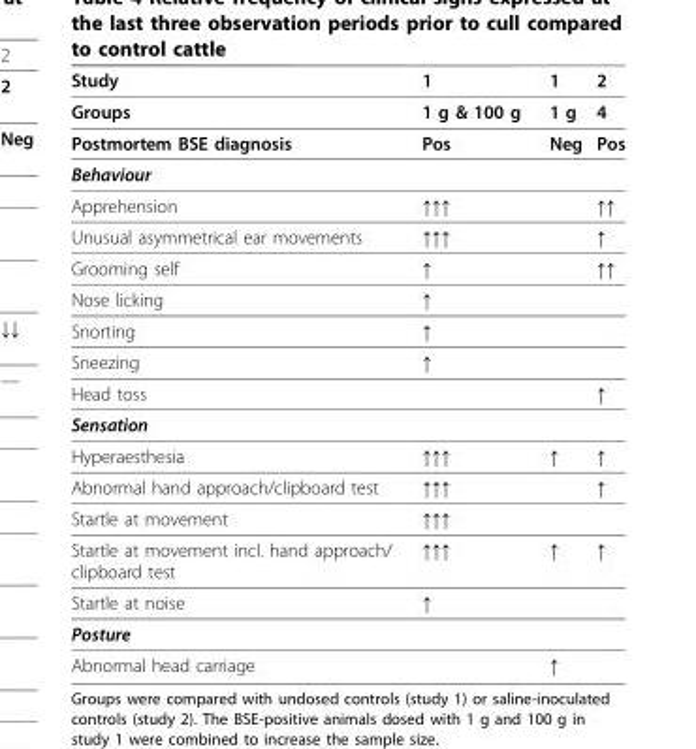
<table><thead><tr><td>Study</td><td>1</td><td>1</td><td>2</td></tr></thead><tbody><tr><td>Groups</td><td>1 g &amp; 100 g</td><td>1 g</td><td>4</td></tr><tr><td>Postmortem BSE diagnosis</td><td>Pos</td><td>Neg</td><td>Pos</td></tr><tr><td colspan="4">Behaviour</td></tr><tr><td>Apprehension</td><td>↑↑↑</td><td></td><td>↑↑</td></tr><tr><td>Unusual asymmetrical ear movements</td><td>↑↑↑</td><td></td><td>↑</td></tr><tr><td>Grooming self</td><td>↑</td><td></td><td>↑↑</td></tr><tr><td>Nose licking</td><td>↑</td><td></td><td></td></tr><tr><td>Snorting</td><td>↑</td><td></td><td></td></tr><tr><td>Sneezing</td><td>↑</td><td></td><td></td></tr><tr><td>Head toss</td><td></td><td></td><td>↑</td></tr><tr><td colspan="4">Sensation</td></tr><tr><td>Hyperaesthesia</td><td>↑↑↑</td><td>↑</td><td>↑</td></tr><tr><td>Abnormal hand approach/clipboard test</td><td>↑↑↑</td><td></td><td>↑</td></tr><tr><td>Startle at movement</td><td>↑↑↑</td><td></td><td></td></tr><tr><td>Startle at movement incl. hand approach/ clipboard test</td><td>↑↑↑</td><td>↑</td><td>↑</td></tr><tr><td>Startle at noise</td><td>↑</td><td></td><td></td></tr><tr><td colspan="4">Posture</td></tr><tr><td>Abnormal head carriage</td><td></td><td>↑</td><td></td></tr></tbody></table>